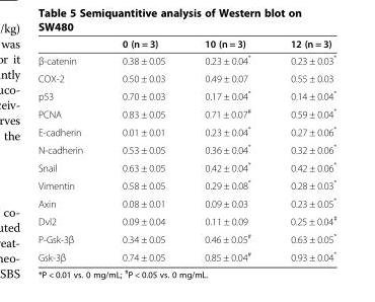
<table><thead><tr><td></td><td>0 (n = 3)</td><td>10 (n = 3)</td><td>12 (n = 3)</td></tr></thead><tbody><tr><td>β-catenin</td><td>0.38 ± 0.05</td><td>0.23 ± 0.04*</td><td>0.23 ± 0.03*</td></tr><tr><td>COX-2</td><td>0.50 ± 0.03</td><td>0.49 ± 0.07</td><td>0.55 ± 0.03</td></tr><tr><td>p53</td><td>0.70 ± 0.03</td><td>0.17 ± 0.04*</td><td>0.14 ± 0.04*</td></tr><tr><td>PCNA</td><td>0.83 ± 0.05</td><td>0.71 ± 0.07<sup>#</sup></td><td>0.59 ± 0.04*</td></tr><tr><td>E-cadherin</td><td>0.01 ± 0.01</td><td>0.23 ± 0.04*</td><td>0.27 ± 0.06*</td></tr><tr><td>N-cadherin</td><td>0.53 ± 0.05</td><td>0.36 ± 0.04*</td><td>0.32 ± 0.06*</td></tr><tr><td>Snail</td><td>0.63 ± 0.05</td><td>0.42 ± 0.04*</td><td>0.42 ± 0.06*</td></tr><tr><td>Vimentin</td><td>0.58 ± 0.05</td><td>0.29 ± 0.08*</td><td>0.28 ± 0.03*</td></tr><tr><td>Axin</td><td>0.08 ± 0.01</td><td>0.09 ± 0.03</td><td>0.23 ± 0.05*</td></tr><tr><td>Dvl2</td><td>0.09 ± 0.04</td><td>0.11 ± 0.09</td><td>0.25 ± 0.04<sup>#</sup></td></tr><tr><td>P-Gsk-3β</td><td>0.34 ± 0.05</td><td>0.46 ± 0.05<sup>#</sup></td><td>0.63 ± 0.05*</td></tr><tr><td>Gsk-3β</td><td>0.74 ± 0.05</td><td>0.85 ± 0.04<sup>#</sup></td><td>0.93 ± 0.04*</td></tr></tbody></table>